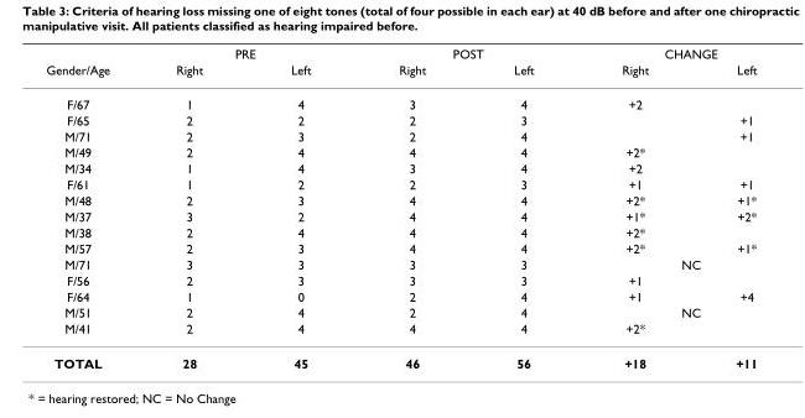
<table><thead><tr><td rowspan="2">Gender/Age</td><td colspan="2">PRE</td><td colspan="2">POST</td><td colspan="2">CHANGE</td></tr><tr><td>Right</td><td>Left</td><td>Right</td><td>Left</td><td>Right</td><td>Left</td></tr></thead><tbody><tr><td>F/67</td><td>1</td><td>4</td><td>3</td><td>4</td><td>+2</td><td></td></tr><tr><td>F/65</td><td>2</td><td>2</td><td>2</td><td>3</td><td></td><td>+1</td></tr><tr><td>M/71</td><td>2</td><td>3</td><td>2</td><td>4</td><td></td><td>+1</td></tr><tr><td>M/49</td><td>2</td><td>4</td><td>4</td><td>4</td><td>+2*</td><td></td></tr><tr><td>M/34</td><td>1</td><td>4</td><td>3</td><td>4</td><td>+2</td><td></td></tr><tr><td>F/61</td><td>1</td><td>2</td><td>2</td><td>3</td><td>+1</td><td>+1</td></tr><tr><td>M/48</td><td>2</td><td>3</td><td>4</td><td>4</td><td>+2*</td><td>+1*</td></tr><tr><td>M/37</td><td>3</td><td>2</td><td>4</td><td>4</td><td>+1*</td><td>+2*</td></tr><tr><td>M/38</td><td>2</td><td>4</td><td>4</td><td>4</td><td>+2*</td><td></td></tr><tr><td>M/57</td><td>2</td><td>3</td><td>4</td><td>4</td><td>+2*</td><td>+1*</td></tr><tr><td>M/71</td><td>3</td><td>3</td><td>3</td><td>3</td><td colspan="2">NC</td></tr><tr><td>F/56</td><td>2</td><td>3</td><td>3</td><td>3</td><td>+1</td><td></td></tr><tr><td>F/64</td><td>1</td><td>0</td><td>2</td><td>4</td><td>+1</td><td>+4</td></tr><tr><td>M/51</td><td>2</td><td>4</td><td>2</td><td>4</td><td colspan="2">NC</td></tr><tr><td>M/41</td><td>2</td><td>4</td><td>4</td><td>4</td><td>+2*</td><td></td></tr><tr><td>TOTAL</td><td>28</td><td>45</td><td>46</td><td>56</td><td>+18</td><td>+11</td></tr></tbody></table>